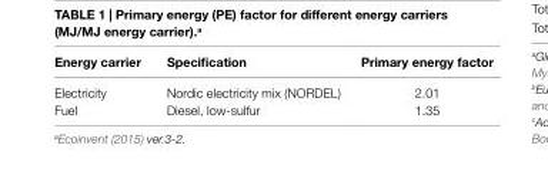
<table><thead><tr><td>energy carrier</td><td>specification</td><td>Primary energy factor</td></tr></thead><tbody><tr><td>Electricity</td><td>Nordic electricity mix (NORDEL)</td><td>2.01</td></tr><tr><td>Fuel</td><td>Diesel, low-sulfur</td><td>1.35</td></tr></tbody></table>